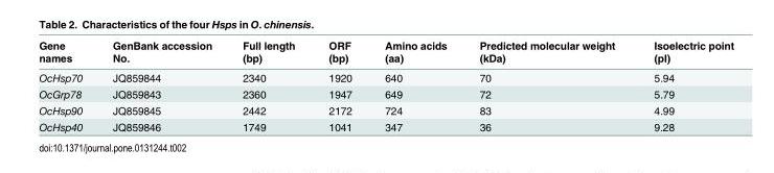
<table><thead><tr><td>Gene names</td><td>GenBank accession No.</td><td>Full length (bp)</td><td>ORF (bp)</td><td>Amino acids (aa)</td><td>Predicted molecular weight (kDa)</td><td>Isoelectric point (pI)</td></tr></thead><tbody><tr><td>OcHsp70</td><td>JQ859844</td><td>2340</td><td>1920</td><td>640</td><td>70</td><td>5.94</td></tr><tr><td>OcGrp78</td><td>JQ859843</td><td>2360</td><td>1947</td><td>649</td><td>72</td><td>5.79</td></tr><tr><td>OcHsp90</td><td>JQ859845</td><td>2442</td><td>2172</td><td>724</td><td>83</td><td>4.99</td></tr><tr><td>OcHsp40</td><td>JQ859846</td><td>1749</td><td>1041</td><td>347</td><td>36</td><td>9.28</td></tr></tbody></table>